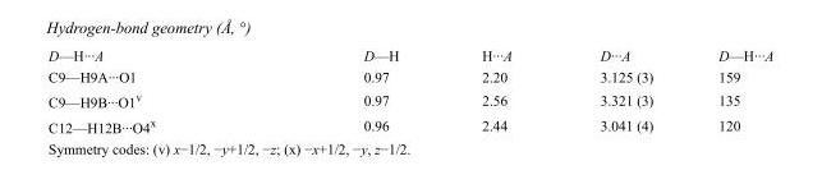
<table><tbody><tr><td>D—H···A</td><td>D—H</td><td>H···A</td><td>D···A</td><td>D—H···A</td></tr><tr><td>C9—H9A···O1</td><td>0.97</td><td>2.20</td><td>3.125 (3)</td><td>159</td></tr><tr><td>C9—H9B···O1<sup>v</sup></td><td>0.97</td><td>2.56</td><td>3.321 (3)</td><td>135</td></tr><tr><td>C12—H12B···O4<sup>x</sup></td><td>0.96</td><td>2.44</td><td>3.041 (4)</td><td>120</td></tr></tbody></table>